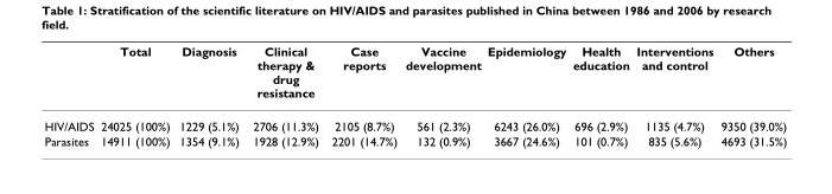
<table><thead><tr><td></td><td>Total</td><td>Diagnosis</td><td>Clinical therapy &amp; drug resistance</td><td>Case reports</td><td>Vaccine development</td><td>Epidemiology</td><td>Health education</td><td>Interventions and control</td><td>Others</td></tr></thead><tbody><tr><td>HIV/AIDS</td><td>24025 (100%)</td><td>1229 (5.1%)</td><td>2706 (11.3%)</td><td>2105 (8.7%)</td><td>561 (2.3%)</td><td>6243 (26.0%)</td><td>696 (2.9%)</td><td>1135 (4.7%)</td><td>9350 (39.0%)</td></tr><tr><td>Parasites</td><td>14911 (100%)</td><td>1354 (9.1%)</td><td>1928 (12.9%)</td><td>2201 (14.7%)</td><td>132 (0.9%)</td><td>3667 (24.6%)</td><td>101 (0.7%)</td><td>835 (5.6%)</td><td>4693 (31.5%)</td></tr></tbody></table>